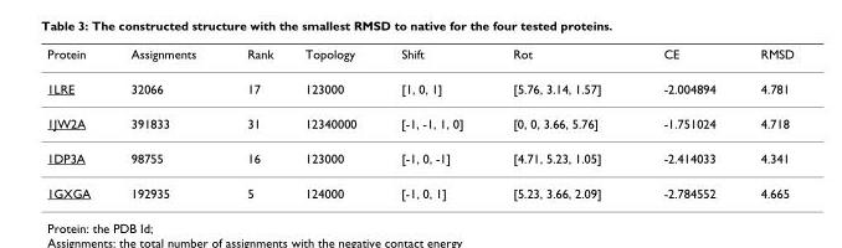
<table><thead><tr><td>Protein</td><td>Assignments</td><td>Rank</td><td>Topology</td><td>Shift</td><td>Rot</td><td>CE</td><td>RMSD</td></tr></thead><tbody><tr><td>1LRE</td><td>32066</td><td>17</td><td>123000</td><td>[1, 0, 1]</td><td>[5.76, 3.14, 1.57]</td><td>-2.004894</td><td>4.781</td></tr><tr><td>1JW2A</td><td>391833</td><td>31</td><td>12340000</td><td>[-1, -1, 1, 0]</td><td>[0, 0, 3.66, 5.76]</td><td>-1.751024</td><td>4.718</td></tr><tr><td>1DP3A</td><td>98755</td><td>16</td><td>123000</td><td>[-1, 0, -1]</td><td>[4.71, 5.23, 1.05]</td><td>-2.414033</td><td>4.341</td></tr><tr><td>1GXGA</td><td>192935</td><td>5</td><td>124000</td><td>[-1, 0, 1]</td><td>[5.23, 3.66, 2.09]</td><td>-2.784552</td><td>4.665</td></tr></tbody></table>